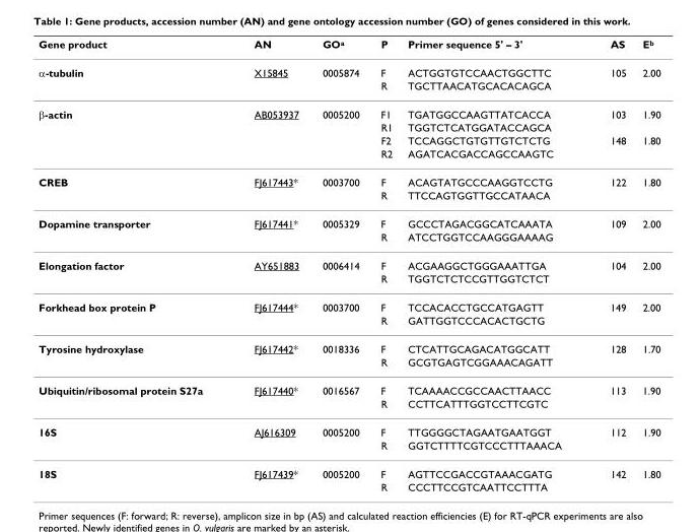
<table><thead><tr><td>Gene product</td><td>AN</td><td>GO<sup>a</sup></td><td>P</td><td>Primer sequence 5&#x27; – 3&#x27;</td><td>AS</td><td>E<sup>b</sup></td></tr></thead><tbody><tr><td rowspan="2">α-tubulin</td><td>X15845</td><td>0005874</td><td>F</td><td>ACTGGTGTCCAACTGGCTTC</td><td>105</td><td>2.00</td></tr><tr><td></td><td></td><td>R</td><td>TGCTTAACATGCACACAGCA</td><td></td><td></td></tr><tr><td rowspan="4">β-actin</td><td>AB053937</td><td>0005200</td><td>F1</td><td>TGATGGCCAAGTTATCACCA</td><td>103</td><td>1.90</td></tr><tr><td></td><td></td><td>R1</td><td>TGGTCTCATGGATACCAGCA</td><td></td><td></td></tr><tr><td></td><td></td><td>F2</td><td>TCCAGGCTGTGTTGTCTCTG</td><td>148</td><td>1.80</td></tr><tr><td></td><td></td><td>R2</td><td>AGATCACGACCAGCCAAGTC</td><td></td><td></td></tr><tr><td rowspan="2">CREB</td><td>FJ617443*</td><td>0003700</td><td>F</td><td>ACAGTATGCCCAAGGTCCTG</td><td>122</td><td>1.80</td></tr><tr><td></td><td></td><td>R</td><td>TTCCAGTGGTTGCCATAACA</td><td></td><td></td></tr><tr><td rowspan="2">Dopamine transporter</td><td>FJ617441*</td><td>0005329</td><td>F</td><td>GCCCTAGACGGCATCAAATA</td><td>109</td><td>2.00</td></tr><tr><td></td><td></td><td>R</td><td>ATCCTGGTCCAAGGGAAAAG</td><td></td><td></td></tr><tr><td rowspan="2">Elongation factor</td><td>AY651883</td><td>0006414</td><td>F</td><td>ACGAAGGCTGGGAAATTGA</td><td>104</td><td>2.00</td></tr><tr><td></td><td></td><td>R</td><td>TGGTCTCTCCGTTGGTCTCT</td><td></td><td></td></tr><tr><td rowspan="2">Forkhead box protein P</td><td>FJ617444*</td><td>0003700</td><td>F</td><td>TCCACACCTGCCATGAGTT</td><td>149</td><td>2.00</td></tr><tr><td></td><td></td><td>R</td><td>GATTGGTCCCACACTGCTG</td><td></td><td></td></tr><tr><td rowspan="2">Tyrosine hydroxylase</td><td>FJ617442*</td><td>0018336</td><td>F</td><td>CTCATTGCAGACATGGCATT</td><td>128</td><td>1.70</td></tr><tr><td></td><td></td><td>R</td><td>GCGTGAGTCGGAAACAGATT</td><td></td><td></td></tr><tr><td rowspan="2">Ubiquitin/ribosomal protein S27a</td><td>FJ617440*</td><td>0016567</td><td>F</td><td>TCAAAACCGCCAACTTAACC</td><td>113</td><td>1.90</td></tr><tr><td></td><td></td><td>R</td><td>CCTTCATTTGGTCCTTCGTC</td><td></td><td></td></tr><tr><td rowspan="2">16S</td><td>AJ616309</td><td>0005200</td><td>F</td><td>TTGGGGCTAGAATGAATGGT</td><td>112</td><td>1.90</td></tr><tr><td></td><td></td><td>R</td><td>GGTCTTTTCGTCCCTTTAAACA</td><td></td><td></td></tr><tr><td rowspan="2">18S</td><td>FJ617439*</td><td>0005200</td><td>F</td><td>AGTTCCGACCGTAAACGATG</td><td>142</td><td>1.80</td></tr><tr><td></td><td></td><td>R</td><td>CCCTTCCGTCAATTCCTTTA</td><td></td><td></td></tr></tbody></table>